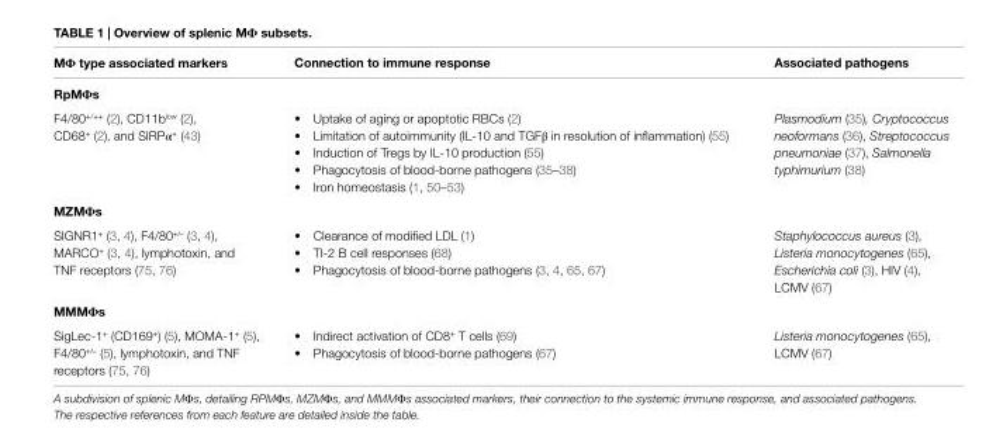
<table><thead><tr><td>MΦ type associated markers</td><td>Connection to immune response</td><td>Associated pathogens</td></tr></thead><tbody><tr><td colspan="3">RpMΦs</td></tr><tr><td>F4/80<sup>+/++</sup> (2), CD11b<sup>low</sup> (2), CD68<sup>+</sup> (2), and SIRPα<sup>+</sup> (43)</td><td>• Uptake of aging or apoptotic RBCs (2) • Limitation of autoimmunity (IL-10 and TGFβ in resolution of inflammation) (55) • Induction of Tregs by IL-10 production (55) • Phagocytosis of blood-borne pathogens (35–38) • Iron homeostasis (1, 50–53)</td><td>Plasmodium (35), Cryptococcus neoformans (36), Streptococcus pneumoniae (37), Salmonella typhimurium (38)</td></tr><tr><td colspan="3">MZMΦs</td></tr><tr><td>SIGNR1<sup>+</sup> (3, 4), F4/80<sup>+/‒</sup> (3, 4), MARCO<sup>+</sup> (3, 4), lymphotoxin, and TNF receptors (75, 76)</td><td>• Clearance of modified LDL (1) • TI-2 B cell responses (68) • Phagocytosis of blood-borne pathogens (3, 4, 65, 67)</td><td>Staphylococcus aureus (3), Listeria monocytogenes (65), Escherichia coli (3), HIV (4), LCMV (67)</td></tr><tr><td colspan="3">MMMΦs</td></tr><tr><td>SigLec-1<sup>+</sup> (CD169<sup>+</sup>) (5), MOMA-1<sup>+</sup> (5), F4/80<sup>+/‒</sup> (5), lymphotoxin, and TNF receptors (75, 76)</td><td>• Indirect activation of CD8<sup>+</sup> T cells (69) • Phagocytosis of blood-borne pathogens (67)</td><td>Listeria monocytogenes (65), LCMV (67)</td></tr></tbody></table>